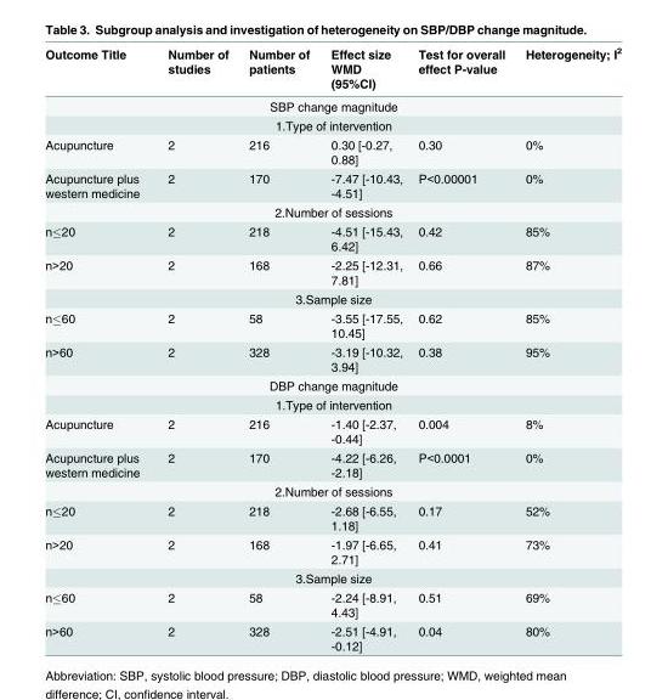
<table><thead><tr><td>Outcome Title</td><td>Number of studies</td><td>Number of patients</td><td>Effect size WMD (95%CI)</td><td>Test for overall effect P-value</td><td>Heterogeneity; I<sup>2</sup></td></tr></thead><tbody><tr><td colspan="6">SBP change magnitude</td></tr><tr><td colspan="6">1.Type of intervention</td></tr><tr><td>Acupuncture</td><td>2</td><td>216</td><td>0.30 [-0.27, 0.88]</td><td>0.30</td><td>0%</td></tr><tr><td>Acupuncture plus western medicine</td><td>2</td><td>170</td><td>-7.47 [-10.43, -4.51]</td><td>P&lt;0.00001</td><td>0%</td></tr><tr><td colspan="6">2.Number of sessions</td></tr><tr><td>n≤20</td><td>2</td><td>218</td><td>-4.51 [-15.43, 6.42]</td><td>0.42</td><td>85%</td></tr><tr><td>n&gt;20</td><td>2</td><td>168</td><td>-2.25 [-12.31, 7.81]</td><td>0.66</td><td>87%</td></tr><tr><td colspan="6">3.Sample size</td></tr><tr><td>n≤60</td><td>2</td><td>58</td><td>-3.55 [-17.55, 10.45]</td><td>0.62</td><td>85%</td></tr><tr><td>n&gt;60</td><td>2</td><td>328</td><td>-3.19 [-10.32, 3.94]</td><td>0.38</td><td>95%</td></tr><tr><td colspan="6">DBP change magnitude</td></tr><tr><td colspan="6">1.Type of intervention</td></tr><tr><td>Acupuncture</td><td>2</td><td>216</td><td>-1.40 [-2.37, -0.44]</td><td>0.004</td><td>8%</td></tr><tr><td>Acupuncture plus western medicine</td><td>2</td><td>170</td><td>-4.22 [-6.26, -2.18]</td><td>P&lt;0.0001</td><td>0%</td></tr><tr><td colspan="6">2.Number of sessions</td></tr><tr><td>n≤20</td><td>2</td><td>218</td><td>-2.68 [-6.55, 1.18]</td><td>0.17</td><td>52%</td></tr><tr><td>n&gt;20</td><td>2</td><td>168</td><td>-1.97 [-6.65, 2.71]</td><td>0.41</td><td>73%</td></tr><tr><td colspan="6">3.Sample size</td></tr><tr><td>n≤60</td><td>2</td><td>58</td><td>-2.24 [-8.91, 4.43]</td><td>0.51</td><td>69%</td></tr><tr><td>n&gt;60</td><td>2</td><td>328</td><td>-2.51 [-4.91, -0.12]</td><td>0.04</td><td>80%</td></tr></tbody></table>